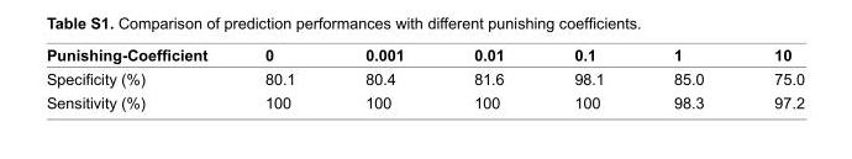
<table><thead><tr><td>Punishing-Coeffi cient</td><td>0</td><td>0.001</td><td>0.01</td><td>0.1</td><td>1</td><td>10</td></tr></thead><tbody><tr><td>Specifi city (%)</td><td>80.1</td><td>80.4</td><td>81.6</td><td>98.1</td><td>85.0</td><td>75.0</td></tr><tr><td>Sensitivity (%)</td><td>100</td><td>100</td><td>100</td><td>100</td><td>98.3</td><td>97.2</td></tr></tbody></table>